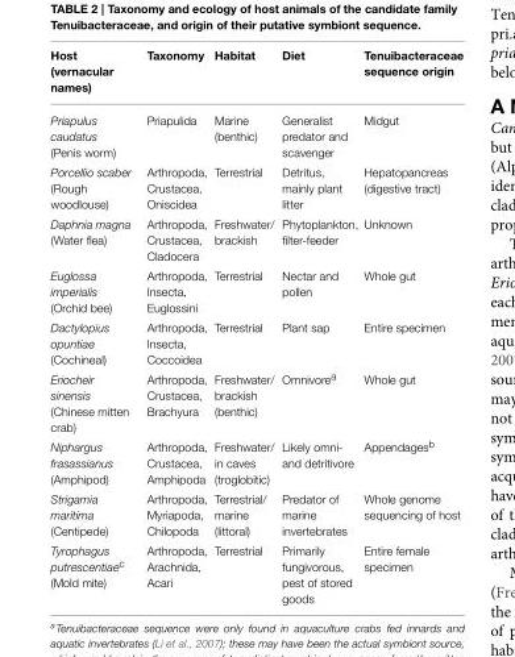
<table><thead><tr><td>Host (vernacular names)</td><td>Taxonomy</td><td>Habitat</td><td>Diet</td><td>Tenuibacteraceae sequence origin</td></tr></thead><tbody><tr><td>Priapulus caudatus (Penis worm)</td><td>Priapulida</td><td>Marine (benthic)</td><td>Generalist predator and scavenger</td><td>Midgut</td></tr><tr><td>Porcellio scaber (Rough woodlouse)</td><td>Arthropoda, Crustacea, Oniscidea</td><td>Terrestrial</td><td>Detritus, mainly plant litter</td><td>Hepatopancreas (digestive tract)</td></tr><tr><td>Daphnia magna (Water flea)</td><td>Arthropoda, Crustacea, Cladocera</td><td>Freshwater/ brackish</td><td>Phytoplankton, filter-feeder</td><td>Unknown</td></tr><tr><td>Euglossa imperialis (Orchid bee)</td><td>Arthropoda, Insecta, Euglossini</td><td>Terrestrial</td><td>Nectar and pollen</td><td>Whole gut</td></tr><tr><td>Dactylopius opuntiae (Cochineal)</td><td>Arthropoda, Insecta, Coccoidea</td><td>Terrestrial</td><td>Plant sap</td><td>Entire specimen</td></tr><tr><td>Eriocheir sinensis (Chinese mitten crab)</td><td>Arthropoda, Crustacea, Brachyura</td><td>Freshwater/ brackish (benthic)</td><td>Omnivore<sup>a</sup></td><td>Whole gut</td></tr><tr><td>Niphargus frasassianus (Amphipod)</td><td>Arthropoda, Crustacea, Amphipoda</td><td>Freshwater/ in caves (troglobitic)</td><td>Likely omni- and detritivore</td><td>Appendages<sup>b</sup></td></tr><tr><td>Strigamia maritima (Centipede)</td><td>Arthropoda, Myriapoda, Chilopoda</td><td>Terrestrial/ marine (littoral)</td><td>Predator of marine invertebrates</td><td>Whole genome sequencing of host</td></tr><tr><td>Tyrophagus putrescentiae<sup>c</sup> (Mold mite)</td><td>Arthropoda, Arachnida, Acari</td><td>Terrestrial</td><td>Primarily fungivorous, pest of stored goods</td><td>Entire female specimen</td></tr></tbody></table>